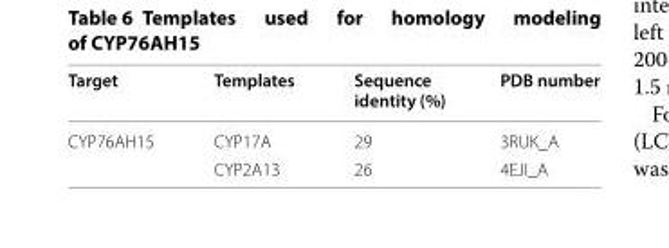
<table><thead><tr><td>Target</td><td>Templates</td><td>Sequence identity (%)</td><td>PDB number</td></tr></thead><tbody><tr><td rowspan="2">CYP76AH15</td><td>CYP17A</td><td>29</td><td>3RUK_A</td></tr><tr><td>CYP2A13</td><td>26</td><td>4EJI_A</td></tr></tbody></table>